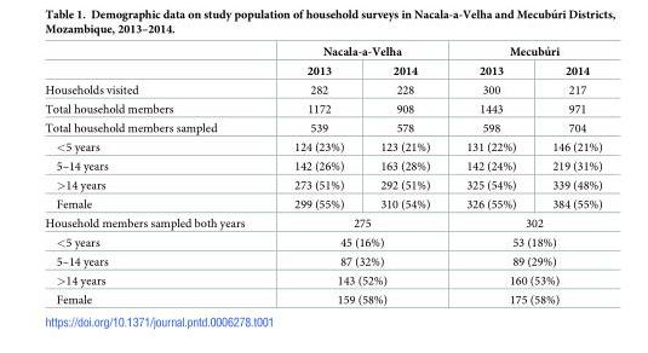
<table><thead><tr><td rowspan="2"></td><td colspan="2">Nacala-a-Velha</td><td colspan="2">Mecubu´ri</td></tr><tr><td>2013</td><td>2014</td><td>2013</td><td>2014</td></tr></thead><tbody><tr><td>Households visited</td><td>282</td><td>228</td><td>300</td><td>217</td></tr><tr><td>Total household members</td><td>1172</td><td>908</td><td>1443</td><td>971</td></tr><tr><td>Total household members sampled</td><td>539</td><td>578</td><td>598</td><td>704</td></tr><tr><td>&lt;5 years</td><td>124 (23%)</td><td>123 (21%)</td><td>131 (22%)</td><td>146 (21%)</td></tr><tr><td>5–14 years</td><td>142 (26%)</td><td>163 (28%)</td><td>142 (24%)</td><td>219 (31%)</td></tr><tr><td>&gt;14 years</td><td>273 (51%)</td><td>292 (51%)</td><td>325 (54%)</td><td>339 (48%)</td></tr><tr><td>Female</td><td>299 (55%)</td><td>310 (54%)</td><td>326 (55%)</td><td>384 (55%)</td></tr><tr><td>Household members sampled both years</td><td colspan="2">275</td><td colspan="2">302</td></tr><tr><td>&lt;5 years</td><td colspan="2">45 (16%)</td><td colspan="2">53 (18%)</td></tr><tr><td>5–14 years</td><td colspan="2">87 (32%)</td><td colspan="2">89 (29%)</td></tr><tr><td>&gt;14 years</td><td colspan="2">143 (52%)</td><td colspan="2">160 (53%)</td></tr><tr><td>Female</td><td colspan="2">159 (58%)</td><td colspan="2">175 (58%)</td></tr></tbody></table>